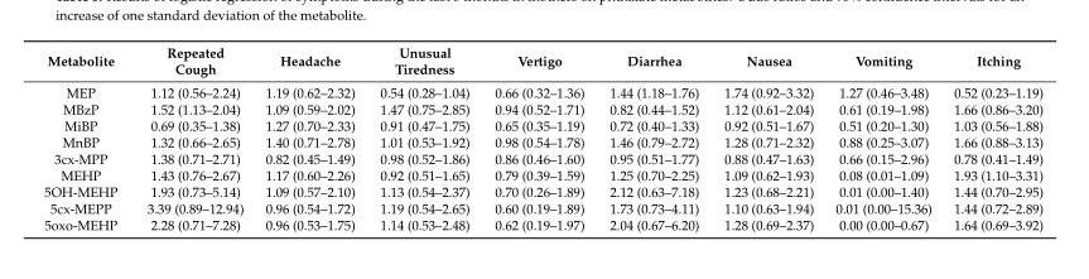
<table><thead><tr><td>Metabolite</td><td>Repeated Cough</td><td>Headache</td><td>Unusual Tiredness</td><td>Vertigo</td><td>Diarrhea</td><td>Nausea</td><td>Vomiting</td><td>Itching</td></tr></thead><tbody><tr><td>MEP</td><td>1.12 (0.56–2.24)</td><td>1.19 (0.62–2.32)</td><td>0.54 (0.28–1.04)</td><td>0.66 (0.32–1.36)</td><td>1.44 (1.18–1.76)</td><td>1.74 (0.92–3.32)</td><td>1.27 (0.46–3.48)</td><td>0.52 (0.23–1.19)</td></tr><tr><td>MBzP</td><td>1.52 (1.13–2.04)</td><td>1.09 (0.59–2.02)</td><td>1.47 (0.75–2.85)</td><td>0.94 (0.52–1.71)</td><td>0.82 (0.44–1.52)</td><td>1.12 (0.61–2.04)</td><td>0.61 (0.19–1.98)</td><td>1.66 (0.86–3.20)</td></tr><tr><td>MiBP</td><td>0.69 (0.35–1.38)</td><td>1.27 (0.70–2.33)</td><td>0.91 (0.47–1.75)</td><td>0.65 (0.35–1.19)</td><td>0.72 (0.40–1.33)</td><td>0.92 (0.51–1.67)</td><td>0.51 (0.20–1.30)</td><td>1.03 (0.56–1.88)</td></tr><tr><td>MnBP</td><td>1.32 (0.66–2.65)</td><td>1.40 (0.71–2.78)</td><td>1.01 (0.53–1.92)</td><td>0.98 (0.54–1.78)</td><td>1.46 (0.79–2.72)</td><td>1.28 (0.71–2.32)</td><td>0.88 (0.25–3.07)</td><td>1.66 (0.88–3.13)</td></tr><tr><td>3cx-MPP</td><td>1.38 (0.71–2.71)</td><td>0.82 (0.45–1.49)</td><td>0.98 (0.52–1.86)</td><td>0.86 (0.46–1.60)</td><td>0.95 (0.51–1.77)</td><td>0.88 (0.47–1.63)</td><td>0.66 (0.15–2.96)</td><td>0.78 (0.41–1.49)</td></tr><tr><td>MEHP</td><td>1.43 (0.76–2.67)</td><td>1.17 (0.60–2.26)</td><td>0.92 (0.51–1.65)</td><td>0.79 (0.39–1.59)</td><td>1.25 (0.70–2.25)</td><td>1.09 (0.62–1.93)</td><td>0.08 (0.01–1.09)</td><td>1.93 (1.10–3.31)</td></tr><tr><td>5OH-MEHP</td><td>1.93 (0.73–5.14)</td><td>1.09 (0.57–2.10)</td><td>1.13 (0.54–2.37)</td><td>0.70 (0.26–1.89)</td><td>2.12 (0.63–7.18)</td><td>1.23 (0.68–2.21)</td><td>0.01 (0.00–1.40)</td><td>1.44 (0.70–2.95)</td></tr><tr><td>5cx-MEPP</td><td>3.39 (0.89–12.94)</td><td>0.96 (0.54–1.72)</td><td>1.19 (0.54–2.65)</td><td>0.60 (0.19–1.89)</td><td>1.73 (0.73–4.11)</td><td>1.10 (0.63–1.94)</td><td>0.01 (0.00–15.36)</td><td>1.44 (0.72–2.89)</td></tr><tr><td>5oxo-MEHP</td><td>2.28 (0.71–7.28)</td><td>0.96 (0.53–1.75)</td><td>1.14 (0.53–2.48)</td><td>0.62 (0.19–1.97)</td><td>2.04 (0.67–6.20)</td><td>1.28 (0.69–2.37)</td><td>0.00 (0.00–0.67)</td><td>1.64 (0.69–3.92)</td></tr></tbody></table>